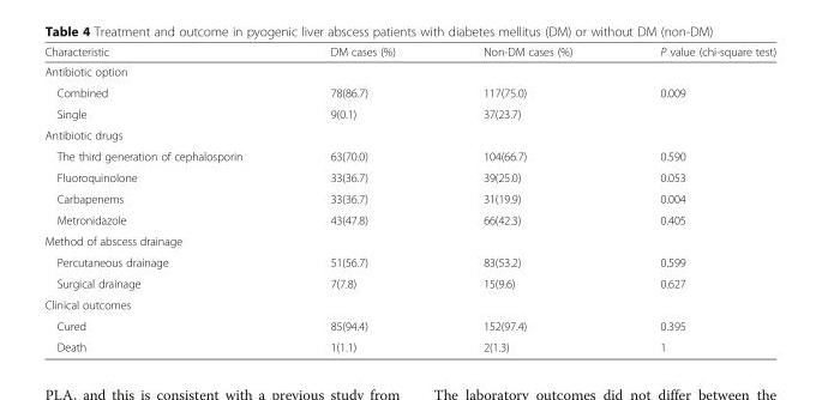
<table><thead><tr><td>Characteristic</td><td>DM cases (%)</td><td>Non-DM cases (%)</td><td>P value (chi-square test)</td></tr></thead><tbody><tr><td colspan="4">Antibiotic option</td></tr><tr><td>Combined</td><td>78(86.7)</td><td>117(75.0)</td><td>0.009</td></tr><tr><td>Single</td><td>9(0.1)</td><td>37(23.7)</td><td></td></tr><tr><td colspan="4">Antibiotic drugs</td></tr><tr><td>The third generation of cephalosporin</td><td>63(70.0)</td><td>104(66.7)</td><td>0.590</td></tr><tr><td>Fluoroquinolone</td><td>33(36.7)</td><td>39(25.0)</td><td>0.053</td></tr><tr><td>Carbapenems</td><td>33(36.7)</td><td>31(19.9)</td><td>0.004</td></tr><tr><td>Metronidazole</td><td>43(47.8)</td><td>66(42.3)</td><td>0.405</td></tr><tr><td colspan="4">Method of abscess drainage</td></tr><tr><td>Percutaneous drainage</td><td>51(56.7)</td><td>83(53.2)</td><td>0.599</td></tr><tr><td>Surgical drainage</td><td>7(7.8)</td><td>15(9.6)</td><td>0.627</td></tr><tr><td colspan="4">Clinical outcomes</td></tr><tr><td>Cured</td><td>85(94.4)</td><td>152(97.4)</td><td>0.395</td></tr><tr><td>Death</td><td>1(1.1)</td><td>2(1.3)</td><td>1</td></tr></tbody></table>